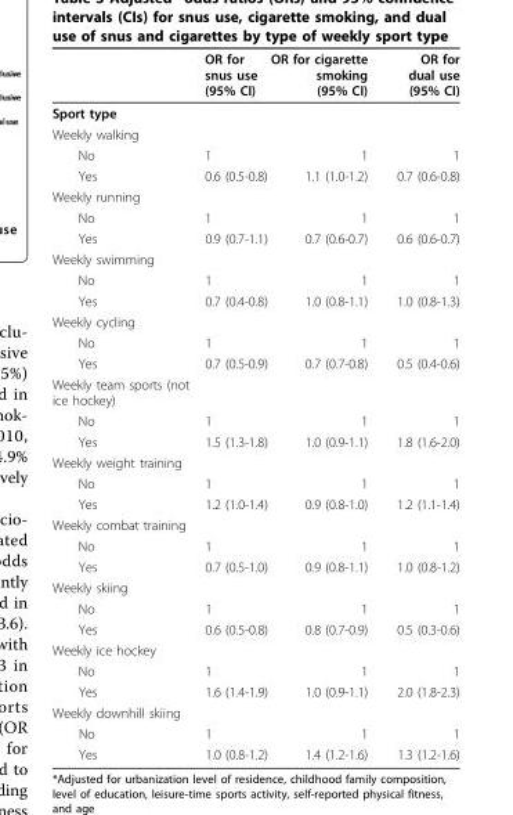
<table><thead><tr><td></td><td>OR for snus use (95% CI)</td><td>OR for cigarette smoking (95% CI)</td><td>OR for dual use (95% CI)</td></tr></thead><tbody><tr><td colspan="4">Sport type</td></tr><tr><td colspan="4">Weekly walking</td></tr><tr><td>No</td><td>1</td><td>1</td><td>1</td></tr><tr><td>Yes</td><td>0.6 (0.5-0.8)</td><td>1.1 (1.0-1.2)</td><td>0.7 (0.6-0.8)</td></tr><tr><td colspan="4">Weekly running</td></tr><tr><td>No</td><td>1</td><td>1</td><td>1</td></tr><tr><td>Yes</td><td>0.9 (0.7-1.1)</td><td>0.7 (0.6-0.7)</td><td>0.6 (0.6-0.7)</td></tr><tr><td colspan="4">Weekly swimming</td></tr><tr><td>No</td><td>1</td><td>1</td><td>1</td></tr><tr><td>Yes</td><td>0.7 (0.4-0.8)</td><td>1.0 (0.8-1.1)</td><td>1.0 (0.8-1.3)</td></tr><tr><td colspan="4">Weekly cycling</td></tr><tr><td>No</td><td>1</td><td>1</td><td>1</td></tr><tr><td>Yes</td><td>0.7 (0.5-0.9)</td><td>0.7 (0.7-0.8)</td><td>0.5 (0.4-0.6)</td></tr><tr><td colspan="4">Weekly team sports (not ice hockey)</td></tr><tr><td>No</td><td>1</td><td>1</td><td>1</td></tr><tr><td>Yes</td><td>1.5 (1.3-1.8)</td><td>1.0 (0.9-1.1)</td><td>1.8 (1.6-2.0)</td></tr><tr><td colspan="4">Weekly weight training</td></tr><tr><td>No</td><td>1</td><td>1</td><td>1</td></tr><tr><td>Yes</td><td>1.2 (1.0-1.4)</td><td>0.9 (0.8-1.0)</td><td>1.2 (1.1-1.4)</td></tr><tr><td colspan="4">Weekly combat training</td></tr><tr><td>No</td><td>1</td><td>1</td><td>1</td></tr><tr><td>Yes</td><td>0.7 (0.5-1.0)</td><td>0.9 (0.8-1.1)</td><td>1.0 (0.8-1.2)</td></tr><tr><td colspan="4">Weekly skiing</td></tr><tr><td>No</td><td>1</td><td>1</td><td>1</td></tr><tr><td>Yes</td><td>0.6 (0.5-0.8)</td><td>0.8 (0.7-0.9)</td><td>0.5 (0.3-0.6)</td></tr><tr><td colspan="4">Weekly ice hockey</td></tr><tr><td>No</td><td>1</td><td>1</td><td>1</td></tr><tr><td>Yes</td><td>1.6 (1.4-1.9)</td><td>1.0 (0.9-1.1)</td><td>2.0 (1.8-2.3)</td></tr><tr><td colspan="4">Weekly downhill skiing</td></tr><tr><td>No</td><td>1</td><td>1</td><td>1</td></tr><tr><td>Yes</td><td>1.0 (0.8-1.2)</td><td>1.4 (1.2-1.6)</td><td>1.3 (1.2-1.6)</td></tr></tbody></table>